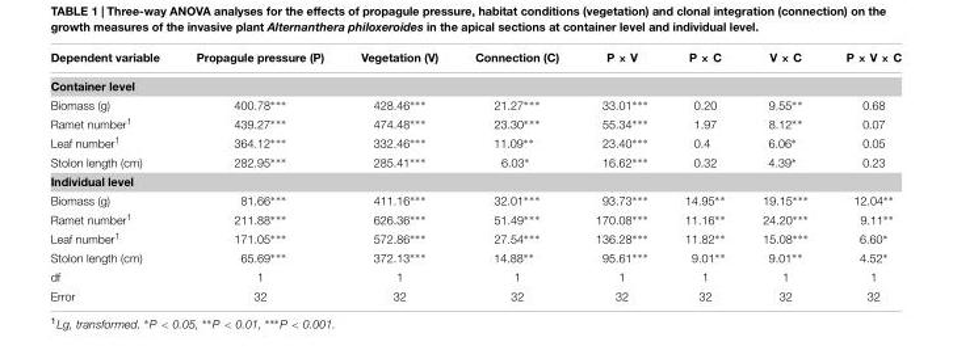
<table><thead><tr><td>Dependent variable</td><td>Propagule pressure (P)</td><td>Vegetation (V)</td><td>Connection (C)</td><td>P × V</td><td>P × C</td><td>V × C</td><td>P × V × C</td></tr></thead><tbody><tr><td colspan="8">Container level</td></tr><tr><td>Biomass (g)</td><td>400.78∗∗∗</td><td>428.46∗∗∗</td><td>21.27∗∗∗</td><td>33.01∗∗∗</td><td>0.20</td><td>9.55∗∗</td><td>0.68</td></tr><tr><td>Ramet number<sup>1</sup></td><td>439.27∗∗∗</td><td>474.48∗∗∗</td><td>23.30∗∗∗</td><td>55.34∗∗∗</td><td>1.97</td><td>8.12∗∗</td><td>0.07</td></tr><tr><td>Leaf number<sup>1</sup></td><td>364.12∗∗∗</td><td>332.46∗∗∗</td><td>11.09∗∗</td><td>23.40∗∗∗</td><td>0.4</td><td>6.06∗</td><td>0.05</td></tr><tr><td>Stolon length (cm)</td><td>282.95∗∗∗</td><td>285.41∗∗∗</td><td>6.03∗</td><td>16.62∗∗∗</td><td>0.32</td><td>4.39∗</td><td>0.23</td></tr><tr><td colspan="8">Individual level</td></tr><tr><td>Biomass (g)</td><td>81.66∗∗∗</td><td>411.16∗∗∗</td><td>32.01∗∗∗</td><td>93.73∗∗∗</td><td>14.95∗∗</td><td>19.15∗∗∗</td><td>12.04∗∗</td></tr><tr><td>Ramet number<sup>1</sup></td><td>211.88∗∗∗</td><td>626.36∗∗∗</td><td>51.49∗∗∗</td><td>170.08∗∗∗</td><td>11.16∗∗</td><td>24.20∗∗∗</td><td>9.11∗∗</td></tr><tr><td>Leaf number<sup>1</sup></td><td>171.05∗∗∗</td><td>572.86∗∗∗</td><td>27.54∗∗∗</td><td>136.28∗∗∗</td><td>11.82∗∗</td><td>15.08∗∗∗</td><td>6.60∗</td></tr><tr><td>Stolon length (cm)</td><td>65.69∗∗∗</td><td>372.13∗∗∗</td><td>14.88∗∗</td><td>95.61∗∗∗</td><td>9.01∗∗</td><td>9.01∗∗</td><td>4.52∗</td></tr><tr><td>df</td><td>1</td><td>1</td><td>1</td><td>1</td><td>1</td><td>1</td><td>1</td></tr><tr><td>Error</td><td>32</td><td>32</td><td>32</td><td>32</td><td>32</td><td>32</td><td>32</td></tr></tbody></table>